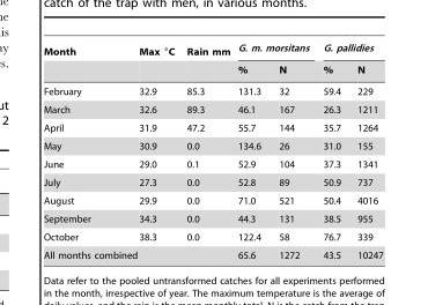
<table><thead><tr><td rowspan="2">Month</td><td rowspan="2">Max °C</td><td rowspan="2">Rain mm</td><td colspan="2">G. m. morsitans</td><td colspan="2">G. pallidies</td></tr><tr><td>%</td><td>N</td><td>%</td><td>N</td></tr></thead><tbody><tr><td>February</td><td>32.9</td><td>85.3</td><td>131.3</td><td>32</td><td>59.4</td><td>229</td></tr><tr><td>March</td><td>32.6</td><td>89.3</td><td>46.1</td><td>167</td><td>26.3</td><td>1211</td></tr><tr><td>April</td><td>31.9</td><td>47.2</td><td>55.7</td><td>144</td><td>35.7</td><td>1264</td></tr><tr><td>May</td><td>30.9</td><td>0.0</td><td>134.6</td><td>26</td><td>31.0</td><td>155</td></tr><tr><td>June</td><td>29.0</td><td>0.1</td><td>52.9</td><td>104</td><td>37.3</td><td>1341</td></tr><tr><td>July</td><td>27.3</td><td>0.0</td><td>52.8</td><td>89</td><td>50.9</td><td>737</td></tr><tr><td>August</td><td>29.9</td><td>0.0</td><td>71.0</td><td>521</td><td>50.4</td><td>4016</td></tr><tr><td>September</td><td>34.3</td><td>0.0</td><td>44.3</td><td>131</td><td>38.5</td><td>955</td></tr><tr><td>October</td><td>38.3</td><td>0.0</td><td>122.4</td><td>58</td><td>76.7</td><td>339</td></tr><tr><td colspan="3">All months combined</td><td>65.6</td><td>1272</td><td>43.5</td><td>10247</td></tr></tbody></table>